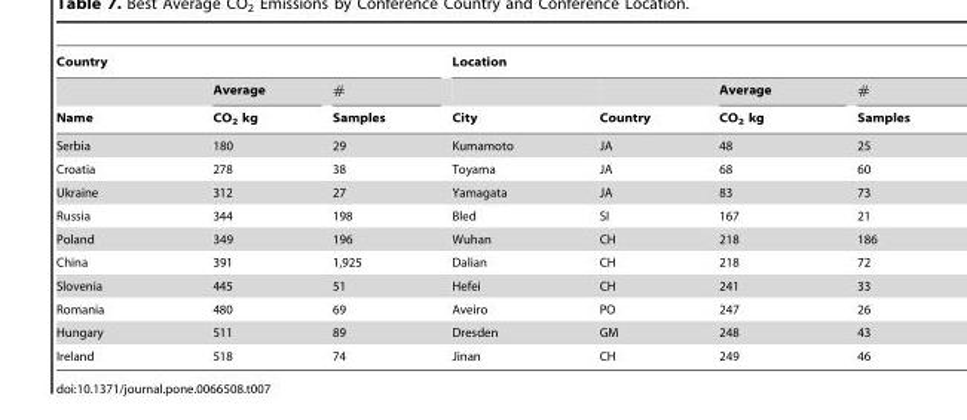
<table><thead><tr><td colspan="3">Country</td><td colspan="4">Location</td></tr><tr><td rowspan="2">Name</td><td rowspan="2">Average CO<sub>2</sub> kg</td><td rowspan="2"># Samples</td><td rowspan="2">City</td><td rowspan="2">Country</td><td rowspan="2">Average CO<sub>2</sub> kg</td><td rowspan="2"># Samples</td></tr><tr></tr></thead><tbody><tr><td>Serbia</td><td>180</td><td>29</td><td>Kumamoto</td><td>JA</td><td>48</td><td>25</td></tr><tr><td>Croatia</td><td>278</td><td>38</td><td>Toyama</td><td>JA</td><td>68</td><td>60</td></tr><tr><td>Ukraine</td><td>312</td><td>27</td><td>Yamagata</td><td>JA</td><td>83</td><td>73</td></tr><tr><td>Russia</td><td>344</td><td>198</td><td>Bled</td><td>SI</td><td>167</td><td>21</td></tr><tr><td>Poland</td><td>349</td><td>196</td><td>Wuhan</td><td>CH</td><td>218</td><td>186</td></tr><tr><td>China</td><td>391</td><td>1,925</td><td>Dalian</td><td>CH</td><td>218</td><td>72</td></tr><tr><td>Slovenia</td><td>445</td><td>51</td><td>Hefei</td><td>CH</td><td>241</td><td>33</td></tr><tr><td>Romania</td><td>480</td><td>69</td><td>Aveiro</td><td>PO</td><td>247</td><td>26</td></tr><tr><td>Hungary</td><td>511</td><td>89</td><td>Dresden</td><td>GM</td><td>248</td><td>43</td></tr><tr><td>Ireland</td><td>518</td><td>74</td><td>Jinan</td><td>CH</td><td>249</td><td>46</td></tr></tbody></table>